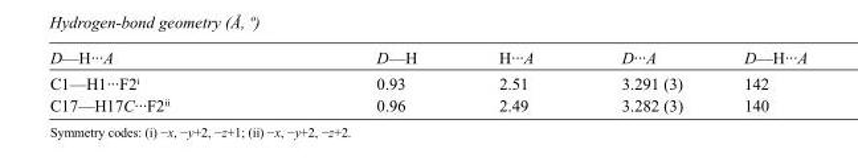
<table><tbody><tr><td>D—H···A</td><td>D—H</td><td>H···A</td><td>D···A</td><td>D—H···A</td></tr><tr><td>C1—H1···F2<sup>i</sup></td><td>0.93</td><td>2.51</td><td>3.291 (3)</td><td>142</td></tr><tr><td>C17—H17C···F2<sup>ii</sup></td><td>0.96</td><td>2.49</td><td>3.282 (3)</td><td>140</td></tr></tbody></table>